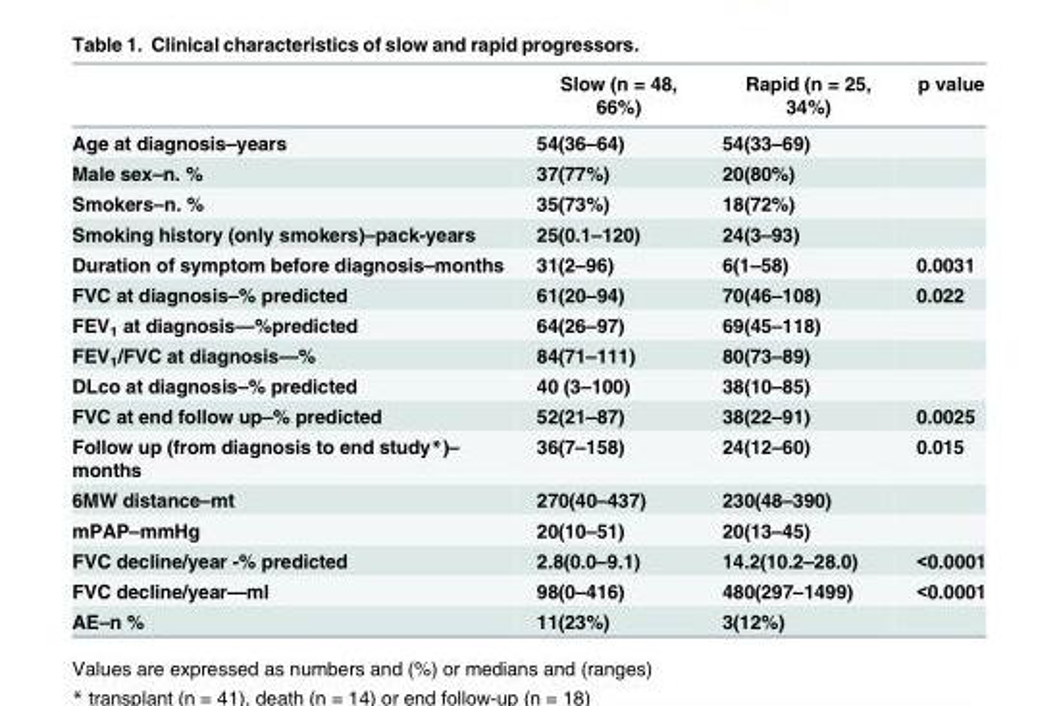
<table><thead><tr><td></td><td>Slow (n = 48, 66%)</td><td>Rapid (n = 25, 34%)</td><td>p value</td></tr></thead><tbody><tr><td>Age at diagnosis–years</td><td>54(36–64)</td><td>54(33–69)</td><td></td></tr><tr><td>Male sex–n. %</td><td>37(77%)</td><td>20(80%)</td><td></td></tr><tr><td>Smokers–n. %</td><td>35(73%)</td><td>18(72%)</td><td></td></tr><tr><td>Smoking history (only smokers)–pack-years</td><td>25(0.1–120)</td><td>24(3–93)</td><td></td></tr><tr><td>Duration of symptom before diagnosis–months</td><td>31(2–96)</td><td>6(1–58)</td><td>0.0031</td></tr><tr><td>FVC at diagnosis–% predicted</td><td>61(20–94)</td><td>70(46–108)</td><td>0.022</td></tr><tr><td>FEV<sub>1</sub> at diagnosis—%predicted</td><td>64(26–97)</td><td>69(45–118)</td><td></td></tr><tr><td>FEV<sub>1</sub>/FVC at diagnosis—%</td><td>84(71–111)</td><td>80(73–89)</td><td></td></tr><tr><td>DLco at diagnosis–% predicted</td><td>40 (3–100)</td><td>38(10–85)</td><td></td></tr><tr><td>FVC at end follow up–% predicted</td><td>52(21–87)</td><td>38(22–91)</td><td>0.0025</td></tr><tr><td>Follow up (from diagnosis to end study*)– months</td><td>36(7–158)</td><td>24(12–60)</td><td>0.015</td></tr><tr><td>6MW distance–mt</td><td>270(40–437)</td><td>230(48–390)</td><td></td></tr><tr><td>mPAP–mmHg</td><td>20(10–51)</td><td>20(13–45)</td><td></td></tr><tr><td>FVC decline/year -% predicted</td><td>2.8(0.0–9.1)</td><td>14.2(10.2–28.0)</td><td>&lt;0.0001</td></tr><tr><td>FVC decline/year—ml</td><td>98(0–416)</td><td>480(297–1499)</td><td>&lt;0.0001</td></tr><tr><td>AE–n %</td><td>11(23%)</td><td>3(12%)</td><td></td></tr></tbody></table>